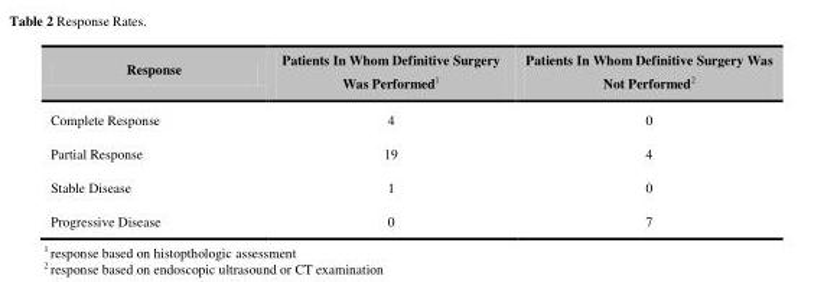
<table><thead><tr><td>Response</td><td>Patients In Whom Definitive Surgery Was Performed<sup>1</sup></td><td>Patients In Whom Definitive Surgery Was Not Performed<sup>2</sup></td></tr></thead><tbody><tr><td>Complete Response</td><td>4</td><td>0</td></tr><tr><td>Partial Response</td><td>19</td><td>4</td></tr><tr><td>Stable Disease</td><td>1</td><td>0</td></tr><tr><td>Progressive Disease</td><td>0</td><td>7</td></tr></tbody></table>